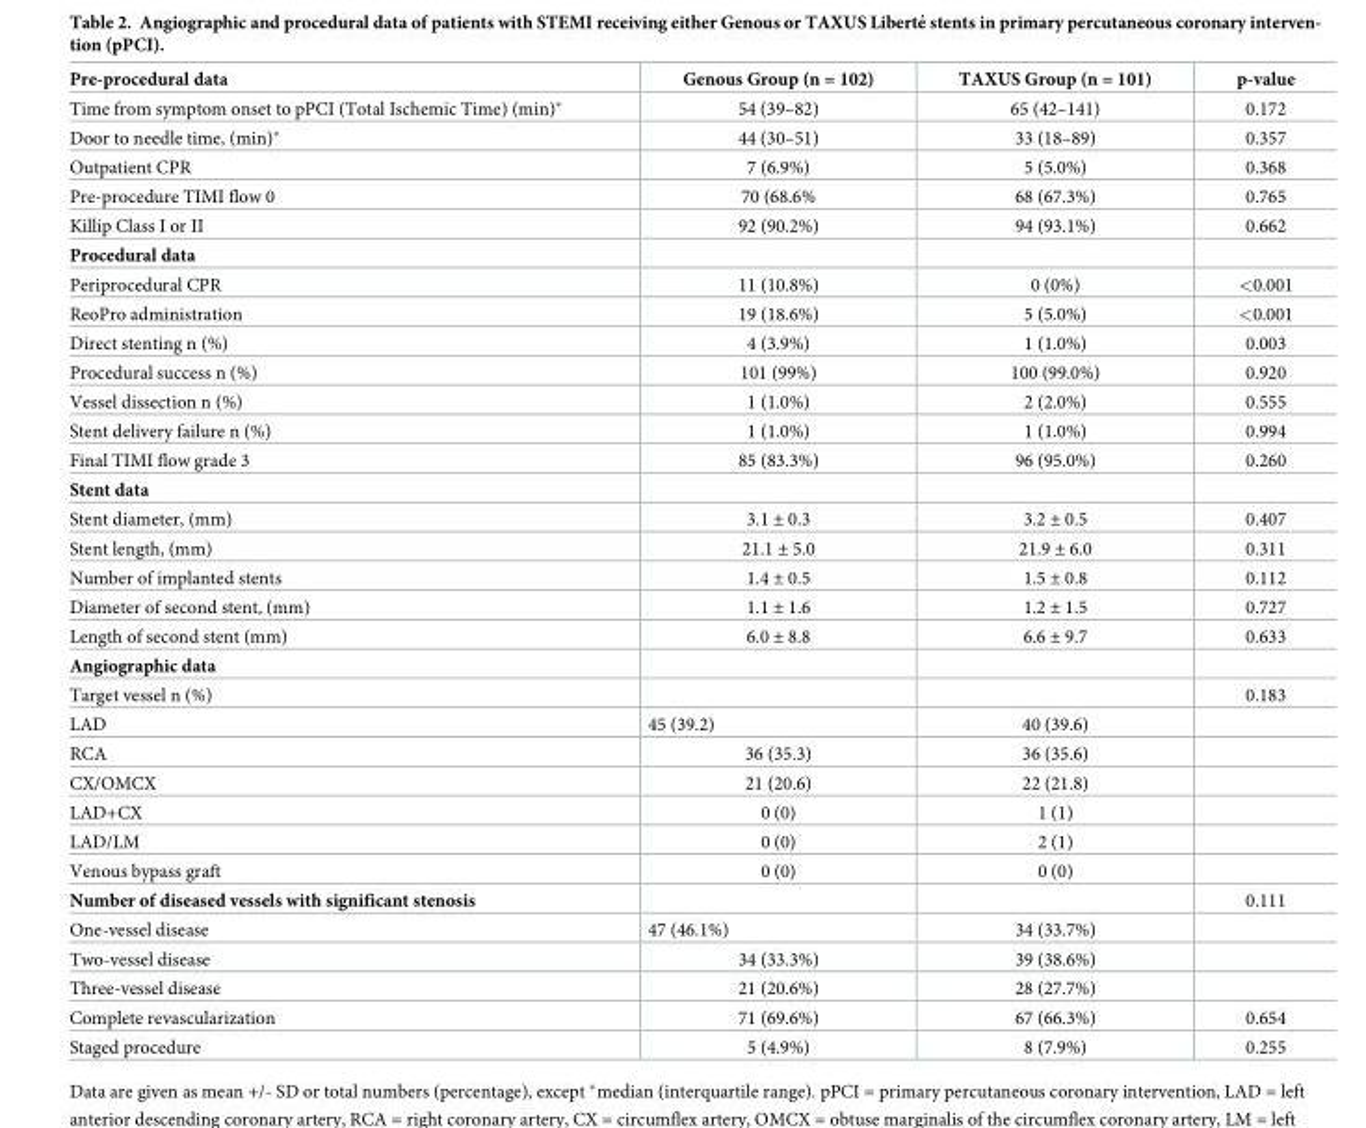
<table><thead><tr><td>Pre-procedural data</td><td>Genous Group (n = 102)</td><td>TAXUS Group (n = 101)</td><td>p-value</td></tr></thead><tbody><tr><td>Time from symptom onset to pPCI (Total Ischemic Time) (min)*</td><td>54 (39–82)</td><td>65 (42–141)</td><td>0.172</td></tr><tr><td>Door to needle time, (min)*</td><td>44 (30–51)</td><td>33 (18–89)</td><td>0.357</td></tr><tr><td>Outpatient CPR</td><td>7 (6.9%)</td><td>5 (5.0%)</td><td>0.368</td></tr><tr><td>Pre-procedure TIMI flow 0</td><td>70 (68.6%</td><td>68 (67.3%)</td><td>0.765</td></tr><tr><td>Killip Class I or II</td><td>92 (90.2%)</td><td>94 (93.1%)</td><td>0.662</td></tr><tr><td colspan="4">Procedural data</td></tr><tr><td>Periprocedural CPR</td><td>11 (10.8%)</td><td>0 (0%)</td><td>&lt;0.001</td></tr><tr><td>ReoPro administration</td><td>19 (18.6%)</td><td>5 (5.0%)</td><td>&lt;0.001</td></tr><tr><td>Direct stenting n (%)</td><td>4 (3.9%)</td><td>1 (1.0%)</td><td>0.003</td></tr><tr><td>Procedural success n (%)</td><td>101 (99%)</td><td>100 (99.0%)</td><td>0.920</td></tr><tr><td>Vessel dissection n (%)</td><td>1 (1.0%)</td><td>2 (2.0%)</td><td>0.555</td></tr><tr><td>Stent delivery failure n (%)</td><td>1 (1.0%)</td><td>1 (1.0%)</td><td>0.994</td></tr><tr><td>Final TIMI flow grade 3</td><td>85 (83.3%)</td><td>96 (95.0%)</td><td>0.260</td></tr><tr><td colspan="4">Stent data</td></tr><tr><td>Stent diameter, (mm)</td><td>3.1 ± 0.3</td><td>3.2 ± 0.5</td><td>0.407</td></tr><tr><td>Stent length, (mm)</td><td>21.1 ± 5.0</td><td>21.9 ± 6.0</td><td>0.311</td></tr><tr><td>Number of implanted stents</td><td>1.4 ± 0.5</td><td>1.5 ± 0.8</td><td>0.112</td></tr><tr><td>Diameter of second stent, (mm)</td><td>1.1 ± 1.6</td><td>1.2 ± 1.5</td><td>0.727</td></tr><tr><td>Length of second stent (mm)</td><td>6.0 ± 8.8</td><td>6.6 ± 9.7</td><td>0.633</td></tr><tr><td colspan="4">Angiographic data</td></tr><tr><td>Target vessel n (%)</td><td></td><td></td><td>0.183</td></tr><tr><td>LAD</td><td>45 (39.2)</td><td>40 (39.6)</td><td></td></tr><tr><td>RCA</td><td>36 (35.3)</td><td>36 (35.6)</td><td></td></tr><tr><td>CX/OMCX</td><td>21 (20.6)</td><td>22 (21.8)</td><td></td></tr><tr><td>LAD+CX</td><td>0 (0)</td><td>1 (1)</td><td></td></tr><tr><td>LAD/LM</td><td>0 (0)</td><td>2 (1)</td><td></td></tr><tr><td>Venous bypass graft</td><td>0 (0)</td><td>0 (0)</td><td></td></tr><tr><td>Number of diseased vessels with significant stenosis</td><td></td><td></td><td>0.111</td></tr><tr><td>One-vessel disease</td><td>47 (46.1%)</td><td>34 (33.7%)</td><td></td></tr><tr><td>Two-vessel disease</td><td>34 (33.3%)</td><td>39 (38.6%)</td><td></td></tr><tr><td>Three-vessel disease</td><td>21 (20.6%)</td><td>28 (27.7%)</td><td></td></tr><tr><td>Complete revascularization</td><td>71 (69.6%)</td><td>67 (66.3%)</td><td>0.654</td></tr><tr><td>Staged procedure</td><td>5 (4.9%)</td><td>8 (7.9%)</td><td>0.255</td></tr></tbody></table>